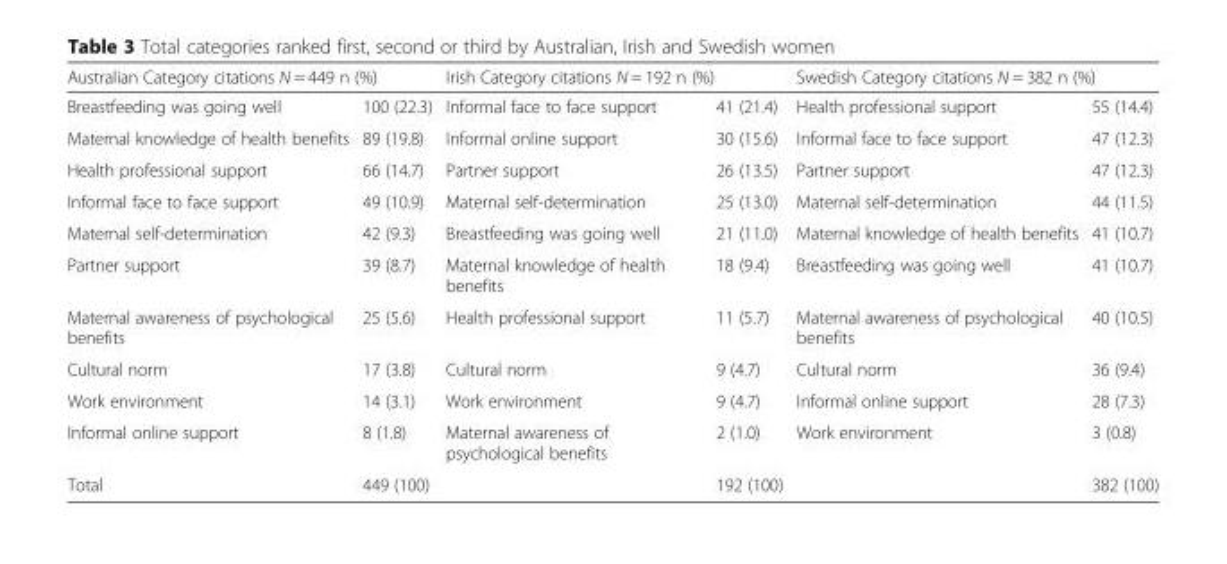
<table><thead><tr><td colspan="2">Australian Category citations N = 449 n (%)</td><td colspan="2">Irish Category citations N = 192 n (%)</td><td colspan="2">Swedish Category citations N = 382 n (%)</td></tr><tr><td>Breastfeeding was going well</td><td>100 (22.3)</td><td>Informal face to face support</td><td>41 (21.4)</td><td>Health professional support</td><td>55 (14.4)</td></tr></thead><tbody><tr><td>Maternal knowledge of health benefits</td><td>89 (19.8)</td><td>Informal online support</td><td>30 (15.6)</td><td>Informal face to face support</td><td>47 (12.3)</td></tr><tr><td>Health professional support</td><td>66 (14.7)</td><td>Partner support</td><td>26 (13.5)</td><td>Partner support</td><td>47 (12.3)</td></tr><tr><td>Informal face to face support</td><td>49 (10.9)</td><td>Maternal self-determination</td><td>25 (13.0)</td><td>Maternal self-determination</td><td>44 (11.5)</td></tr><tr><td>Maternal self-determination</td><td>42 (9.3)</td><td>Breastfeeding was going well</td><td>21 (11.0)</td><td>Maternal knowledge of health benefits</td><td>41 (10.7)</td></tr><tr><td>Partner support</td><td>39 (8.7)</td><td>Maternal knowledge of health benefits</td><td>18 (9.4)</td><td>Breastfeeding was going well</td><td>41 (10.7)</td></tr><tr><td>Maternal awareness of psychological benefits</td><td>25 (5.6)</td><td>Health professional support</td><td>11 (5.7)</td><td>Maternal awareness of psychological benefits</td><td>40 (10.5)</td></tr><tr><td>Cultural norm</td><td>17 (3.8)</td><td>Cultural norm</td><td>9 (4.7)</td><td>Cultural norm</td><td>36 (9.4)</td></tr><tr><td>Work environment</td><td>14 (3.1)</td><td>Work environment</td><td>9 (4.7)</td><td>Informal online support</td><td>28 (7.3)</td></tr><tr><td>Informal online support</td><td>8 (1.8)</td><td>Maternal awareness of psychological benefits</td><td>2 (1.0)</td><td>Work environment</td><td>3 (0.8)</td></tr><tr><td>Total</td><td>449 (100)</td><td></td><td>192 (100)</td><td></td><td>382 (100)</td></tr></tbody></table>